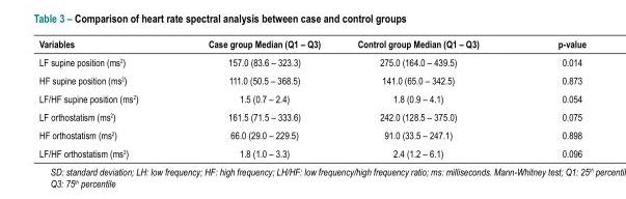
<table><thead><tr><td>Variables</td><td>Case group Median (Q1 – Q3)</td><td>Control group Median (Q1 – Q3)</td><td>p-value</td></tr></thead><tbody><tr><td>LF supine position (ms<sup>2</sup>)</td><td>157.0 (83.6 – 323.3)</td><td>275.0 (164.0 – 439.5)</td><td>0.014</td></tr><tr><td>HF supine position (ms<sup>2</sup>)</td><td>111.0 (50.5 – 368.5)</td><td>141.0 (65.0 – 342.5)</td><td>0.873</td></tr><tr><td>LF/HF supine position (ms<sup>2</sup>)</td><td>1.5 (0.7 – 2.4)</td><td>1.8 (0.9 – 4.1)</td><td>0.054</td></tr><tr><td>LF orthostatism (ms<sup>2</sup>)</td><td>161.5 (71.5 – 333.6)</td><td>242.0 (128.5 – 375.0)</td><td>0.075</td></tr><tr><td>HF orthostatism (ms<sup>2</sup>)</td><td>66.0 (29.0 – 229.5)</td><td>91.0 (33.5 – 247.1)</td><td>0.898</td></tr><tr><td>LF/HF orthostatism (ms<sup>2</sup>)</td><td>1.8 (1.0 – 3.3)</td><td>2.4 (1.2 – 6.1)</td><td>0.096</td></tr></tbody></table>